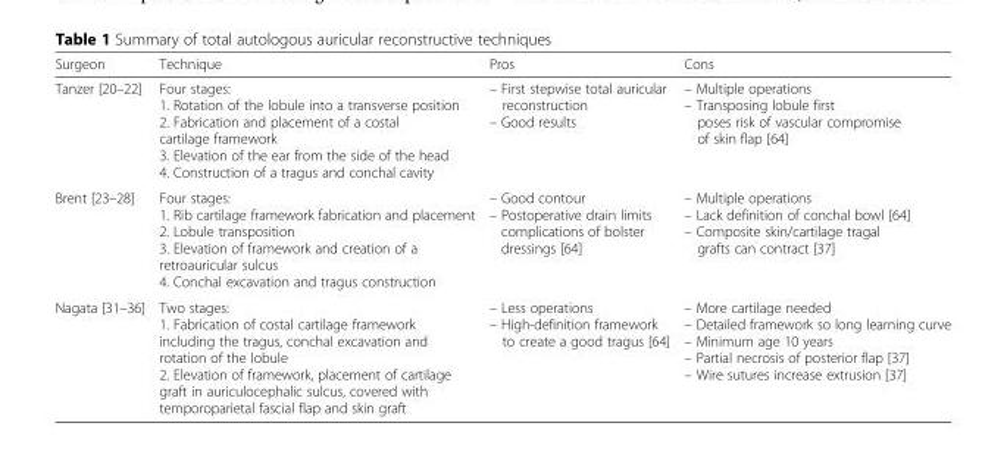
<table><thead><tr><td>Surgeon</td><td>Technique</td><td>Pros</td><td>Cons</td></tr></thead><tbody><tr><td>Tanzer [20–22]</td><td>Four stages: 1. Rotation of the lobule into a transverse position 2. Fabrication and placement of a costal cartilage framework 3. Elevation of the ear from the side of the head 4. Construction of a tragus and conchal cavity</td><td>– First stepwise total auricular reconstruction – Good results</td><td>– Multiple operations – Transposing lobule first poses risk of vascular compromise of skin flap [64]</td></tr><tr><td>Brent [23–28]</td><td>Four stages: 1. Rib cartilage framework fabrication and placement 2. Lobule transposition 3. Elevation of framework and creation of a retroauricular sulcus 4. Conchal excavation and tragus construction</td><td>– Good contour – Postoperative drain limits complications of bolster dressings [64]</td><td>– Multiple operations – Lack definition of conchal bowl [64] – Composite skin/cartilage tragal grafts can contract [37]</td></tr><tr><td>Nagata [31–36]</td><td>Two stages: 1. Fabrication of costal cartilage framework including the tragus, conchal excavation and rotation of the lobule 2. Elevation of framework, placement of cartilage graft in auriculocephalic sulcus, covered with temporoparietal fascial flap and skin graft</td><td>– Less operations – High-definition framework to create a good tragus [64]</td><td>– More cartilage needed – Detailed framework so long learning curve – Minimum age 10 years – Partial necrosis of posterior flap [37] – Wire sutures increase extrusion [37]</td></tr></tbody></table>